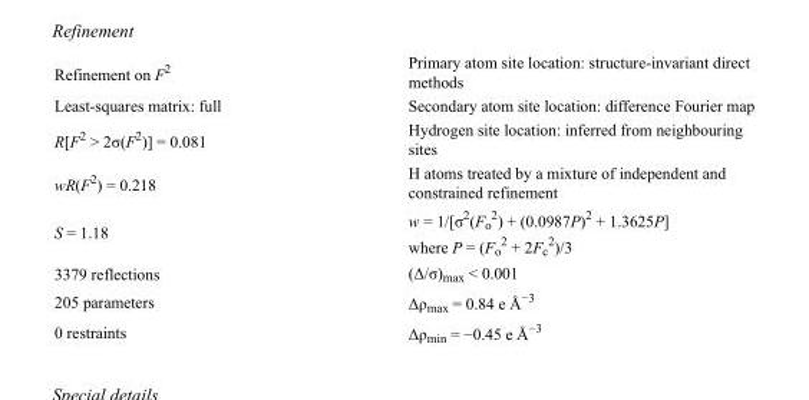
<table><tbody><tr><td>Refinement on F<sup>2</sup></td><td>Primary atom site location: structure-invariant direct methods</td></tr><tr><td>Least-squares matrix: full</td><td>Secondary atom site location: difference Fourier map</td></tr><tr><td>R[F<sup>2</sup> &gt; 2σ(F<sup>2</sup>)] = 0.081</td><td>Hydrogen site location: inferred from neighbouring sites</td></tr><tr><td>wR(F<sup>2</sup>) = 0.218</td><td>H atoms treated by a mixture of independent and constrained refinement</td></tr><tr><td>S = 1.18</td><td>w = 1/[σ<sup>2</sup>(F<sub>o</sub> <sup>2</sup>) + (0.0987P)<sup>2</sup> + 1.3625P] where P = (F<sub>o</sub> <sup>2</sup> + 2F<sub>c</sub> <sup>2</sup>)/3</td></tr><tr><td>3379 reflections</td><td>(Δ/σ)<sub>max</sub> &lt; 0.001</td></tr><tr><td>205 parameters</td><td>Δρ<sub>max</sub> = 0.84 e Å<sup>−3</sup></td></tr><tr><td>0 restraints</td><td>Δρ<sub>min</sub> = −0.45 e Å<sup>−3</sup></td></tr></tbody></table>